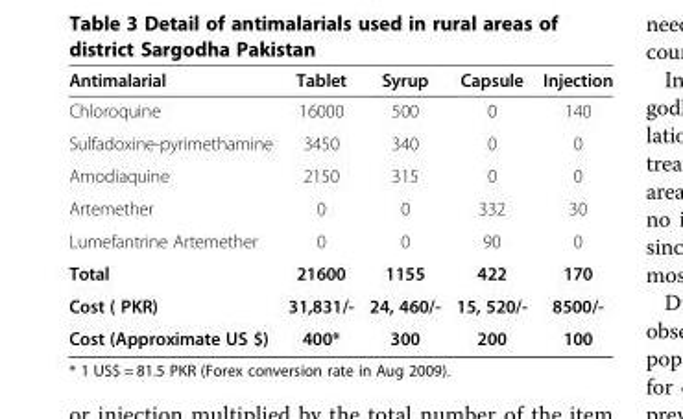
<table><thead><tr><td>Antimalarial</td><td>Tablet</td><td>Syrup</td><td>Capsule</td><td>Injection</td></tr></thead><tbody><tr><td>Chloroquine</td><td>16000</td><td>500</td><td>0</td><td>140</td></tr><tr><td>Sulfadoxine-pyrimethamine</td><td>3450</td><td>340</td><td>0</td><td>0</td></tr><tr><td>Amodiaquine</td><td>2150</td><td>315</td><td>0</td><td>0</td></tr><tr><td>Artemether</td><td>0</td><td>0</td><td>332</td><td>30</td></tr><tr><td>Lumefantrine Artemether</td><td>0</td><td>0</td><td>90</td><td>0</td></tr><tr><td>Total</td><td>21600</td><td>1155</td><td>422</td><td>170</td></tr><tr><td>Cost ( PKR)</td><td>31,831/-</td><td>24, 460/-</td><td>15, 520/-</td><td>8500/-</td></tr><tr><td>Cost (Approximate US $)</td><td>400*</td><td>300</td><td>200</td><td>100</td></tr></tbody></table>